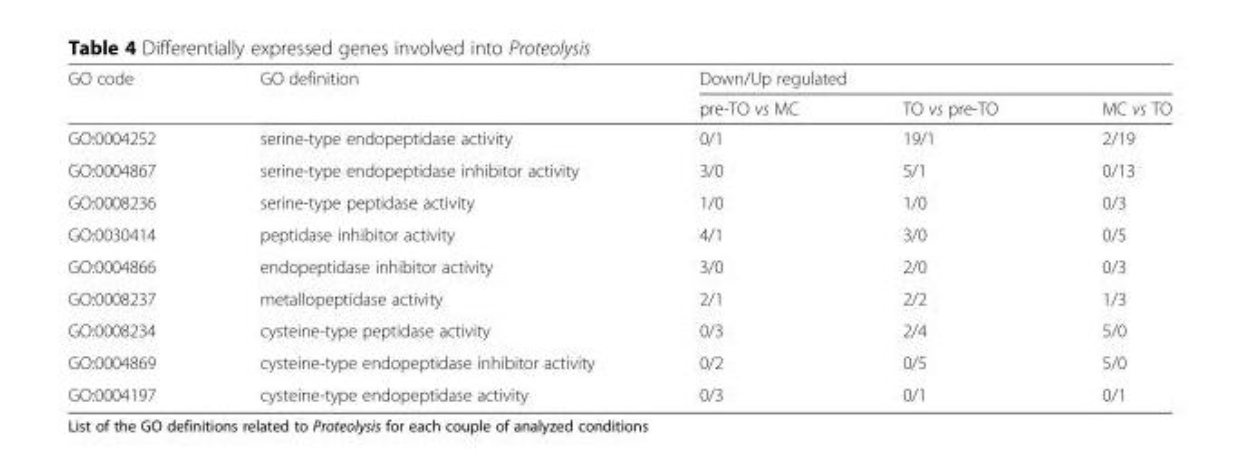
<table><thead><tr><td rowspan="2">GO code</td><td rowspan="2">GO definition</td><td colspan="3">Down/Up regulated</td></tr><tr><td>pre-TO vs MC</td><td>TO vs pre-TO</td><td>MC vs TO</td></tr></thead><tbody><tr><td>GO:0004252</td><td>serine-type endopeptidase activity</td><td>0/1</td><td>19/1</td><td>2/19</td></tr><tr><td>GO:0004867</td><td>serine-type endopeptidase inhibitor activity</td><td>3/0</td><td>5/1</td><td>0/13</td></tr><tr><td>GO:0008236</td><td>serine-type peptidase activity</td><td>1/0</td><td>1/0</td><td>0/3</td></tr><tr><td>GO:0030414</td><td>peptidase inhibitor activity</td><td>4/1</td><td>3/0</td><td>0/5</td></tr><tr><td>GO:0004866</td><td>endopeptidase inhibitor activity</td><td>3/0</td><td>2/0</td><td>0/3</td></tr><tr><td>GO:0008237</td><td>metallopeptidase activity</td><td>2/1</td><td>2/2</td><td>1/3</td></tr><tr><td>GO:0008234</td><td>cysteine-type peptidase activity</td><td>0/3</td><td>2/4</td><td>5/0</td></tr><tr><td>GO:0004869</td><td>cysteine-type endopeptidase inhibitor activity</td><td>0/2</td><td>0/5</td><td>5/0</td></tr><tr><td>GO:0004197</td><td>cysteine-type endopeptidase activity</td><td>0/3</td><td>0/1</td><td>0/1</td></tr></tbody></table>